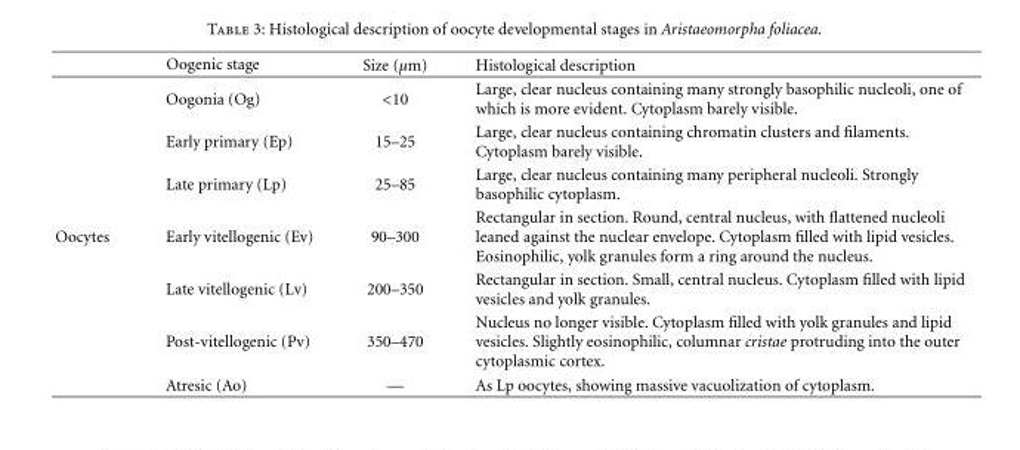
<table><thead><tr><td colspan="2">Oogenic stage</td><td rowspan="2">Size (µm) &lt;10</td><td rowspan="2">Histological description Large, clear nucleus containing many strongly basophilic nucleoli, one of which is more evident. Cytoplasm barely visible.</td></tr><tr><td></td><td>Oogonia (Og)</td></tr></thead><tbody><tr><td></td><td>Early primary (Ep)</td><td>15–25</td><td>Large, clear nucleus containing chromatin clusters and filaments. Cytoplasm barely visible.</td></tr><tr><td></td><td>Late primary (Lp)</td><td>25–85</td><td>Large, clear nucleus containing many peripheral nucleoli. Strongly basophilic cytoplasm.</td></tr><tr><td rowspan="4">Oocytes</td><td>Early vitellogenic (Ev)</td><td>90–300</td><td>Rectangular in section. Round, central nucleus, with flattened nucleoli leaned against the nuclear envelope. Cytoplasm filled with lipid vesicles. Eosinophilic, yolk granules form a ring around the nucleus.</td></tr><tr><td>Late vitellogenic (Lv)</td><td>200–350</td><td>Rectangular in section. Small, central nucleus. Cytoplasm filled with lipid vesicles and yolk granules.</td></tr><tr><td>Post-vitellogenic (Pv)</td><td>350–470</td><td>Nucleus no longer visible. Cytoplasm filled with yolk granules and lipid vesicles. Slightly eosinophilic, columnar cristae protruding into the outer cytoplasmic cortex.</td></tr><tr><td>Atresic (Ao)</td><td>—</td><td>As Lp oocytes, showing massive vacuolization of cytoplasm.</td></tr></tbody></table>